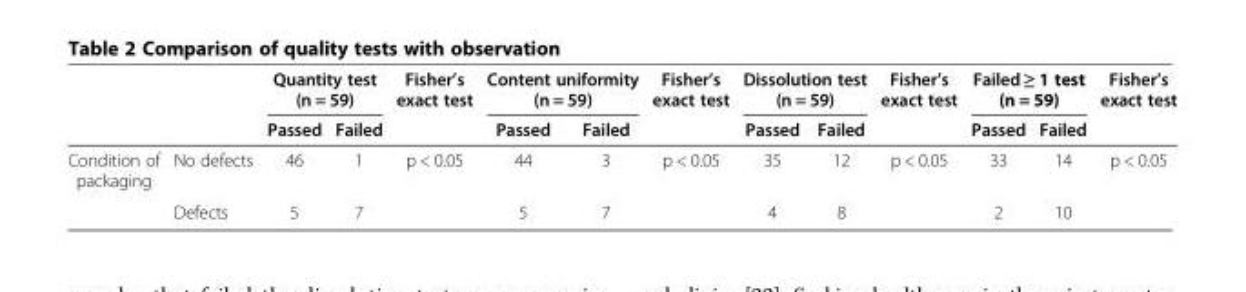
<table><thead><tr><td rowspan="2"></td><td rowspan="2"></td><td colspan="2">Quantity test (n = 59)</td><td rowspan="2">Fisher’s exact test</td><td colspan="2">Content uniformity (n = 59)</td><td rowspan="2">Fisher’s exact test</td><td colspan="2">Dissolution test (n = 59)</td><td rowspan="2">Fisher’s exact test</td><td colspan="2">Failed ≥ 1 test (n = 59)</td><td rowspan="2">Fisher’s exact test</td></tr><tr><td>Passed</td><td>Failed</td><td>Passed</td><td>Failed</td><td>Passed</td><td>Failed</td><td>Passed</td><td>Failed</td></tr></thead><tbody><tr><td rowspan="2">Condition of packaging</td><td>No defects</td><td>46</td><td>1</td><td>p &lt; 0.05</td><td>44</td><td>3</td><td>p &lt; 0.05</td><td>35</td><td>12</td><td>p &lt; 0.05</td><td>33</td><td>14</td><td>p &lt; 0.05</td></tr><tr><td>Defects</td><td>5</td><td>7</td><td></td><td>5</td><td>7</td><td></td><td>4</td><td>8</td><td></td><td>2</td><td>10</td><td></td></tr></tbody></table>